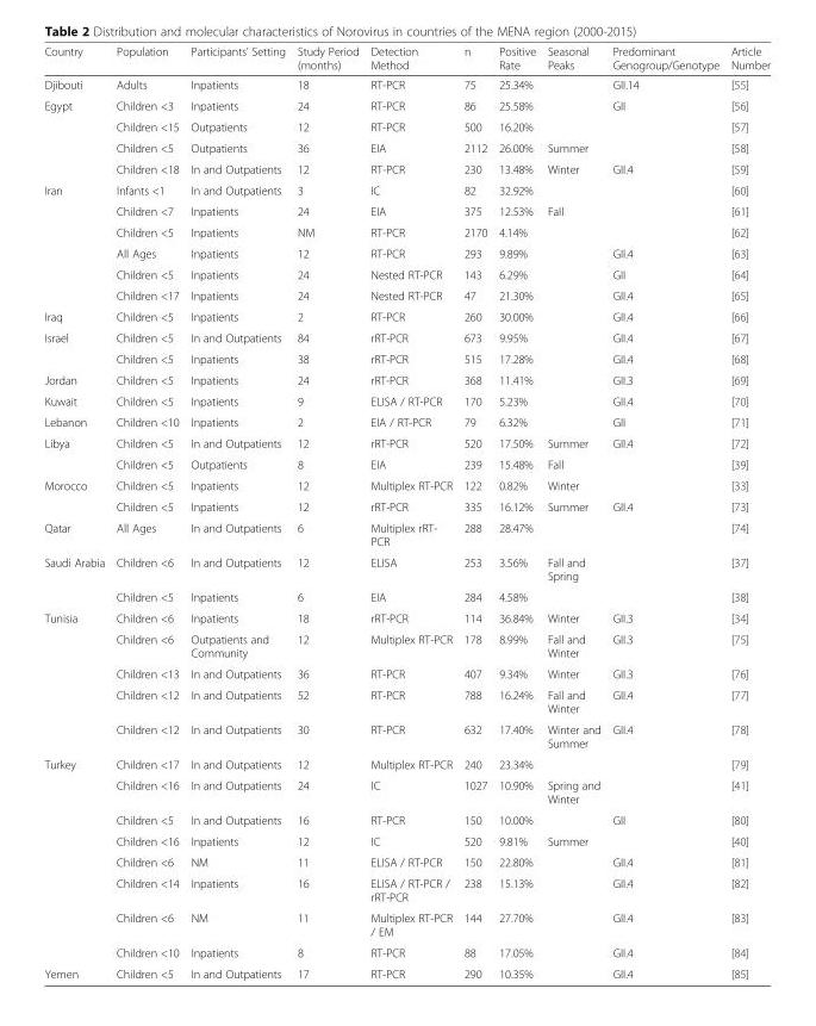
<table><thead><tr><td>Country</td><td>Population</td><td>Participants’ Setting</td><td>Study Period (months)</td><td>Detection Method</td><td>n</td><td>Positive Rate</td><td>Seasonal Peaks</td><td>Predominant Genogroup/Genotype</td><td>Article Number</td></tr></thead><tbody><tr><td>Djibouti</td><td>Adults</td><td>Inpatients</td><td>18</td><td>RT-PCR</td><td>75</td><td>25.34%</td><td></td><td>GII.14</td><td>[55]</td></tr><tr><td rowspan="4">Egypt</td><td>Children &lt;3</td><td>Inpatients</td><td>24</td><td>RT-PCR</td><td>86</td><td>25.58%</td><td></td><td>GII</td><td>[56]</td></tr><tr><td>Children &lt;15</td><td>Outpatients</td><td>12</td><td>RT-PCR</td><td>500</td><td>16.20%</td><td></td><td></td><td>[57]</td></tr><tr><td>Children &lt;5</td><td>Outpatients</td><td>36</td><td>EIA</td><td>2112</td><td>26.00%</td><td>Summer</td><td></td><td>[58]</td></tr><tr><td>Children &lt;18</td><td>In and Outpatients</td><td>12</td><td>RT-PCR</td><td>230</td><td>13.48%</td><td>Winter</td><td>GII.4</td><td>[59]</td></tr><tr><td rowspan="6">Iran</td><td>Infants &lt;1</td><td>In and Outpatients</td><td>3</td><td>IC</td><td>82</td><td>32.92%</td><td></td><td></td><td>[60]</td></tr><tr><td>Children &lt;7</td><td>Inpatients</td><td>24</td><td>EIA</td><td>375</td><td>12.53%</td><td>Fall</td><td></td><td>[61]</td></tr><tr><td>Children &lt;5</td><td>Inpatients</td><td>NM</td><td>RT-PCR</td><td>2170</td><td>4.14%</td><td></td><td></td><td>[62]</td></tr><tr><td>All Ages</td><td>Inpatients</td><td>12</td><td>RT-PCR</td><td>293</td><td>9.89%</td><td></td><td>GII.4</td><td>[63]</td></tr><tr><td>Children &lt;5</td><td>Inpatients</td><td>24</td><td>Nested RT-PCR</td><td>143</td><td>6.29%</td><td></td><td>GII</td><td>[64]</td></tr><tr><td>Children &lt;17</td><td>Inpatients</td><td>24</td><td>Nested RT-PCR</td><td>47</td><td>21.30%</td><td></td><td>GII.4</td><td>[65]</td></tr><tr><td>Iraq</td><td>Children &lt;5</td><td>Inpatients</td><td>2</td><td>RT-PCR</td><td>260</td><td>30.00%</td><td></td><td>GII.4</td><td>[66]</td></tr><tr><td rowspan="2">Israel</td><td>Children &lt;5</td><td>In and Outpatients</td><td>84</td><td>rRT-PCR</td><td>673</td><td>9.95%</td><td></td><td>GII.4</td><td>[67]</td></tr><tr><td>Children &lt;5</td><td>Inpatients</td><td>38</td><td>rRT-PCR</td><td>515</td><td>17.28%</td><td></td><td>GII.4</td><td>[68]</td></tr><tr><td>Jordan</td><td>Children &lt;5</td><td>Inpatients</td><td>24</td><td>rRT-PCR</td><td>368</td><td>11.41%</td><td></td><td>GII.3</td><td>[69]</td></tr><tr><td>Kuwait</td><td>Children &lt;5</td><td>Inpatients</td><td>9</td><td>ELISA / RT-PCR</td><td>170</td><td>5.23%</td><td></td><td>GII.4</td><td>[70]</td></tr><tr><td>Lebanon</td><td>Children &lt;10</td><td>Inpatients</td><td>2</td><td>EIA / RT-PCR</td><td>79</td><td>6.32%</td><td></td><td>GII</td><td>[71]</td></tr><tr><td rowspan="2">Libya</td><td>Children &lt;5</td><td>In and Outpatients</td><td>12</td><td>rRT-PCR</td><td>520</td><td>17.50%</td><td>Summer</td><td>GII.4</td><td>[72]</td></tr><tr><td>Children &lt;5</td><td>Outpatients</td><td>8</td><td>EIA</td><td>239</td><td>15.48%</td><td>Fall</td><td></td><td>[39]</td></tr><tr><td rowspan="2">Morocco</td><td>Children &lt;5</td><td>Inpatients</td><td>12</td><td>Multiplex RT-PCR</td><td>122</td><td>0.82%</td><td>Winter</td><td></td><td>[33]</td></tr><tr><td>Children &lt;5</td><td>Inpatients</td><td>12</td><td>rRT-PCR</td><td>335</td><td>16.12%</td><td>Summer</td><td>GII.4</td><td>[73]</td></tr><tr><td>Qatar</td><td>All Ages</td><td>In and Outpatients</td><td>6</td><td>Multiplex rRT- PCR</td><td>288</td><td>28.47%</td><td></td><td></td><td>[74]</td></tr><tr><td rowspan="2">Saudi Arabia</td><td>Children &lt;6</td><td>In and Outpatients</td><td>12</td><td>ELISA</td><td>253</td><td>3.56%</td><td>Fall and Spring</td><td></td><td>[37]</td></tr><tr><td>Children &lt;5</td><td>Inpatients</td><td>6</td><td>EIA</td><td>284</td><td>4.58%</td><td></td><td></td><td>[38]</td></tr><tr><td rowspan="5">Tunisia</td><td>Children &lt;6</td><td>Inpatients</td><td>18</td><td>rRT-PCR</td><td>114</td><td>36.84%</td><td>Winter</td><td>GII.3</td><td>[34]</td></tr><tr><td>Children &lt;6</td><td>Outpatients and Community</td><td>12</td><td>Multiplex RT-PCR</td><td>178</td><td>8.99%</td><td>Fall and Winter</td><td>GII.3</td><td>[75]</td></tr><tr><td>Children &lt;13</td><td>In and Outpatients</td><td>36</td><td>RT-PCR</td><td>407</td><td>9.34%</td><td>Winter</td><td>GII.3</td><td>[76]</td></tr><tr><td>Children &lt;12</td><td>In and Outpatients</td><td>52</td><td>RT-PCR</td><td>788</td><td>16.24%</td><td>Fall and Winter</td><td>GII.4</td><td>[77]</td></tr><tr><td>Children &lt;12</td><td>In and Outpatients</td><td>30</td><td>RT-PCR</td><td>632</td><td>17.40%</td><td>Winter and Summer</td><td>GII.4</td><td>[78]</td></tr><tr><td rowspan="8">Turkey</td><td>Children &lt;17</td><td>In and Outpatients</td><td>12</td><td>Multiplex RT-PCR</td><td>240</td><td>23.34%</td><td></td><td></td><td>[79]</td></tr><tr><td>Children &lt;16</td><td>In and Outpatients</td><td>24</td><td>IC</td><td>1027</td><td>10.90%</td><td>Spring and Winter</td><td></td><td>[41]</td></tr><tr><td>Children &lt;5</td><td>In and Outpatients</td><td>16</td><td>RT-PCR</td><td>150</td><td>10.00%</td><td></td><td>GII</td><td>[80]</td></tr><tr><td>Children &lt;16</td><td>Inpatients</td><td>12</td><td>IC</td><td>520</td><td>9.81%</td><td>Summer</td><td></td><td>[40]</td></tr><tr><td>Children &lt;6</td><td>NM</td><td>11</td><td>ELISA / RT-PCR</td><td>150</td><td>22.80%</td><td></td><td>GII.4</td><td>[81]</td></tr><tr><td>Children &lt;14</td><td>Inpatients</td><td>16</td><td>ELISA / RT-PCR / rRT-PCR</td><td>238</td><td>15.13%</td><td></td><td>GII.4</td><td>[82]</td></tr><tr><td>Children &lt;6</td><td>NM</td><td>11</td><td>Multiplex RT-PCR / EM</td><td>144</td><td>27.70%</td><td></td><td>GII.4</td><td>[83]</td></tr><tr><td>Children &lt;10</td><td>Inpatients</td><td>8</td><td>RT-PCR</td><td>88</td><td>17.05%</td><td></td><td>GII.4</td><td>[84]</td></tr><tr><td>Yemen</td><td>Children &lt;5</td><td>In and Outpatients</td><td>17</td><td>RT-PCR</td><td>290</td><td>10.35%</td><td></td><td>GII.4</td><td>[85]</td></tr></tbody></table>